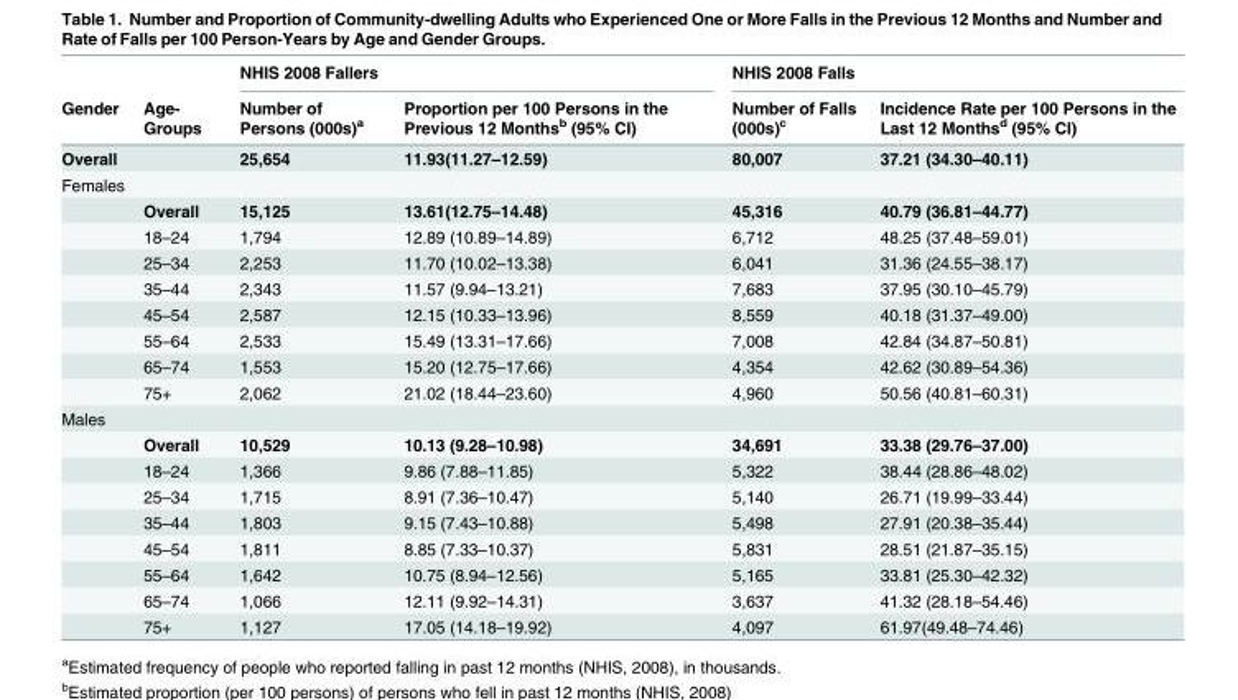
<table><thead><tr><td rowspan="2">Gender</td><td rowspan="2">Age- Groups</td><td colspan="2">NHIS 2008 Fallers</td><td colspan="2">NHIS 2008 Falls</td></tr><tr><td>Number of Persons (000s)<sup>a</sup></td><td>Proportion per 100 Persons in the Previous 12 Months<sup>b</sup> (95% CI)</td><td>Number of Falls (000s)<sup>c</sup></td><td>Incidence Rate per 100 Persons in the Last 12 Months<sup>d</sup> (95% CI)</td></tr></thead><tbody><tr><td>Overall</td><td></td><td>25,654</td><td>11.93(11.27–12.59)</td><td>80,007</td><td>37.21 (34.30–40.11)</td></tr><tr><td colspan="6">Females</td></tr><tr><td></td><td>Overall</td><td>15,125</td><td>13.61(12.75–14.48)</td><td>45,316</td><td>40.79 (36.81–44.77)</td></tr><tr><td></td><td>18–24</td><td>1,794</td><td>12.89 (10.89–14.89)</td><td>6,712</td><td>48.25 (37.48–59.01)</td></tr><tr><td></td><td>25–34</td><td>2,253</td><td>11.70 (10.02–13.38)</td><td>6,041</td><td>31.36 (24.55–38.17)</td></tr><tr><td></td><td>35–44</td><td>2,343</td><td>11.57 (9.94–13.21)</td><td>7,683</td><td>37.95 (30.10–45.79)</td></tr><tr><td></td><td>45–54</td><td>2,587</td><td>12.15 (10.33–13.96)</td><td>8,559</td><td>40.18 (31.37–49.00)</td></tr><tr><td></td><td>55–64</td><td>2,533</td><td>15.49 (13.31–17.66)</td><td>7,008</td><td>42.84 (34.87–50.81)</td></tr><tr><td></td><td>65–74</td><td>1,553</td><td>15.20 (12.75–17.66)</td><td>4,354</td><td>42.62 (30.89–54.36)</td></tr><tr><td></td><td>75+</td><td>2,062</td><td>21.02 (18.44–23.60)</td><td>4,960</td><td>50.56 (40.81–60.31)</td></tr><tr><td colspan="6">Males</td></tr><tr><td></td><td>Overall</td><td>10,529</td><td>10.13 (9.28–10.98)</td><td>34,691</td><td>33.38 (29.76–37.00)</td></tr><tr><td></td><td>18–24</td><td>1,366</td><td>9.86 (7.88–11.85)</td><td>5,322</td><td>38.44 (28.86–48.02)</td></tr><tr><td></td><td>25–34</td><td>1,715</td><td>8.91 (7.36–10.47)</td><td>5,140</td><td>26.71 (19.99–33.44)</td></tr><tr><td></td><td>35–44</td><td>1,803</td><td>9.15 (7.43–10.88)</td><td>5,498</td><td>27.91 (20.38–35.44)</td></tr><tr><td></td><td>45–54</td><td>1,811</td><td>8.85 (7.33–10.37)</td><td>5,831</td><td>28.51 (21.87–35.15)</td></tr><tr><td></td><td>55–64</td><td>1,642</td><td>10.75 (8.94–12.56)</td><td>5,165</td><td>33.81 (25.30–42.32)</td></tr><tr><td></td><td>65–74</td><td>1,066</td><td>12.11 (9.92–14.31)</td><td>3,637</td><td>41.32 (28.18–54.46)</td></tr><tr><td></td><td>75+</td><td>1,127</td><td>17.05 (14.18–19.92)</td><td>4,097</td><td>61.97(49.48–74.46)</td></tr></tbody></table>